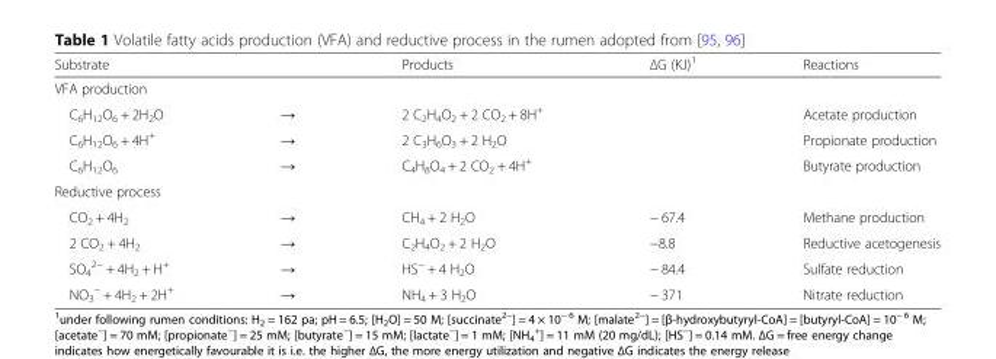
<table><thead><tr><td>Substrate</td><td></td><td>Products</td><td>ΔG (KJ)1</td><td>Reactions</td></tr></thead><tbody><tr><td colspan="5">VFA production</td></tr><tr><td>C<sub>6</sub>H<sub>12</sub>O<sub>6</sub> + 2H<sub>2</sub>O</td><td>→</td><td>2 C<sub>2</sub>H<sub>4</sub>O<sub>2</sub> + 2 CO<sub>2</sub> + 8H<sup>+</sup></td><td></td><td>Acetate production</td></tr><tr><td>C<sub>6</sub>H<sub>12</sub>O<sub>6</sub> + 4H<sup>+</sup></td><td>→</td><td>2 C<sub>3</sub>H<sub>6</sub>O<sub>3</sub> + 2 H<sub>2</sub>O</td><td></td><td>Propionate production</td></tr><tr><td>C<sub>6</sub>H<sub>12</sub>O<sub>6</sub></td><td>→</td><td>C<sub>4</sub>H<sub>8</sub>O<sub>4</sub> + 2 CO<sub>2</sub> + 4H<sup>+</sup></td><td></td><td>Butyrate production</td></tr><tr><td colspan="5">Reductive process</td></tr><tr><td>CO<sub>2</sub> + 4H<sub>2</sub></td><td>→</td><td>CH<sub>4</sub> + 2 H<sub>2</sub>O</td><td>− 67.4</td><td>Methane production</td></tr><tr><td>2 CO<sub>2</sub> + 4H<sub>2</sub></td><td>→</td><td>C<sub>2</sub>H<sub>4</sub>O<sub>2</sub> + 2 H<sub>2</sub>O</td><td>−8.8</td><td>Reductive acetogenesis</td></tr><tr><td>SO<sub>4</sub> <sup>2−</sup> + 4H<sub>2</sub> + H<sup>+</sup></td><td>→</td><td>HS<sup>−</sup> + 4 H<sub>2</sub>O</td><td>− 84.4</td><td>Sulfate reduction</td></tr><tr><td>NO<sub>3</sub> <sup>−</sup> + 4H<sub>2</sub> + 2H<sup>+</sup></td><td>→</td><td>NH<sub>4</sub> + 3 H<sub>2</sub>O</td><td>− 371</td><td>Nitrate reduction</td></tr></tbody></table>